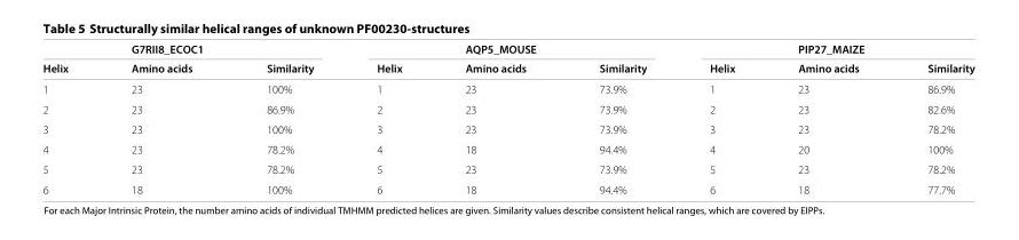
<table><thead><tr><td rowspan="2">Helix</td><td rowspan="2">G7RII8_ECOC1 Amino acids</td><td rowspan="2">Similarity</td><td rowspan="2">Helix</td><td rowspan="2">AQP5_MOUSE Amino acids</td><td rowspan="2">Similarity</td><td rowspan="2">Helix</td><td rowspan="2">PIP27_MAIZE Amino acids</td><td rowspan="2">Similarity</td></tr><tr></tr></thead><tbody><tr><td>1</td><td>23</td><td>100%</td><td>1</td><td>23</td><td>73.9%</td><td>1</td><td>23</td><td>86.9%</td></tr><tr><td>2</td><td>23</td><td>86.9%</td><td>2</td><td>23</td><td>73.9%</td><td>2</td><td>23</td><td>82.6%</td></tr><tr><td>3</td><td>23</td><td>100%</td><td>3</td><td>23</td><td>73.9%</td><td>3</td><td>23</td><td>78.2%</td></tr><tr><td>4</td><td>23</td><td>78.2%</td><td>4</td><td>18</td><td>94.4%</td><td>4</td><td>20</td><td>100%</td></tr><tr><td>5</td><td>23</td><td>78.2%</td><td>5</td><td>23</td><td>73.9%</td><td>5</td><td>23</td><td>78.2%</td></tr><tr><td>6</td><td>18</td><td>100%</td><td>6</td><td>18</td><td>94.4%</td><td>6</td><td>18</td><td>77.7%</td></tr></tbody></table>